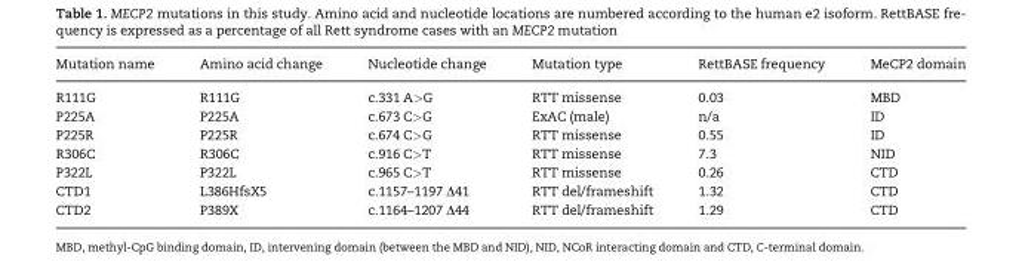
<table><thead><tr><td>Mutation name</td><td>Amino acid change</td><td>Nucleotide change</td><td>Mutation type</td><td>RettBASE frequency</td><td>MeCP2 domain</td></tr></thead><tbody><tr><td>R111G</td><td>R111G</td><td>c.331 A&gt;G</td><td>RTT missense</td><td>0.03</td><td>MBD</td></tr><tr><td>P225A</td><td>P225A</td><td>c.673 C&gt;G</td><td>ExAC (male)</td><td>n/a</td><td>ID</td></tr><tr><td>P225R</td><td>P225R</td><td>c.674 C&gt;G</td><td>RTT missense</td><td>0.55</td><td>ID</td></tr><tr><td>R306C</td><td>R306C</td><td>c.916 C&gt;T</td><td>RTT missense</td><td>7.3</td><td>NID</td></tr><tr><td>P322L</td><td>P322L</td><td>c.965 C&gt;T</td><td>RTT missense</td><td>0.26</td><td>CTD</td></tr><tr><td>CTD1</td><td>L386HfsX5</td><td>c.1157–1197 Δ41</td><td>RTT del/frameshift</td><td>1.32</td><td>CTD</td></tr><tr><td>CTD2</td><td>P389X</td><td>c.1164–1207 Δ44</td><td>RTT del/frameshift</td><td>1.29</td><td>CTD</td></tr></tbody></table>